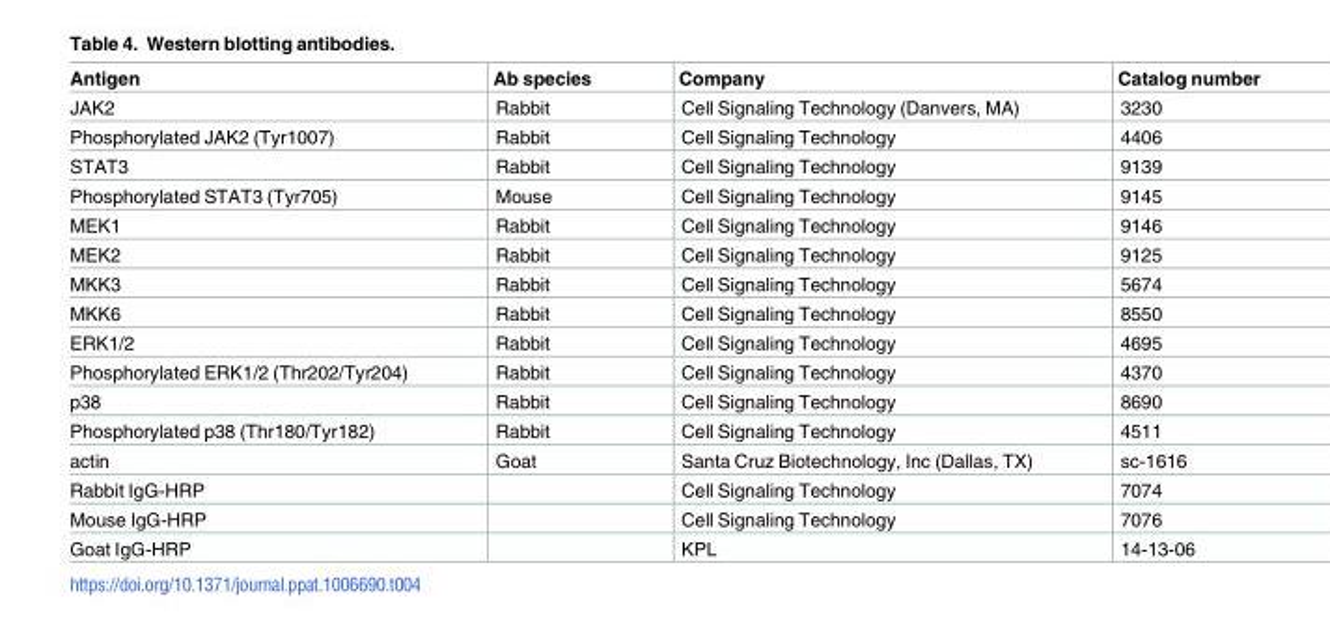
<table><thead><tr><td>Antigen</td><td>Ab species</td><td>Company</td><td>Catalog number</td></tr></thead><tbody><tr><td>JAK2</td><td>Rabbit</td><td>Cell Signaling Technology (Danvers, MA)</td><td>3230</td></tr><tr><td>Phosphorylated JAK2 (Tyr1007)</td><td>Rabbit</td><td>Cell Signaling Technology</td><td>4406</td></tr><tr><td>STAT3</td><td>Rabbit</td><td>Cell Signaling Technology</td><td>9139</td></tr><tr><td>Phosphorylated STAT3 (Tyr705)</td><td>Mouse</td><td>Cell Signaling Technology</td><td>9145</td></tr><tr><td>MEK1</td><td>Rabbit</td><td>Cell Signaling Technology</td><td>9146</td></tr><tr><td>MEK2</td><td>Rabbit</td><td>Cell Signaling Technology</td><td>9125</td></tr><tr><td>MKK3</td><td>Rabbit</td><td>Cell Signaling Technology</td><td>5674</td></tr><tr><td>MKK6</td><td>Rabbit</td><td>Cell Signaling Technology</td><td>8550</td></tr><tr><td>ERK1/2</td><td>Rabbit</td><td>Cell Signaling Technology</td><td>4695</td></tr><tr><td>Phosphorylated ERK1/2 (Thr202/Tyr204)</td><td>Rabbit</td><td>Cell Signaling Technology</td><td>4370</td></tr><tr><td>p38</td><td>Rabbit</td><td>Cell Signaling Technology</td><td>8690</td></tr><tr><td>Phosphorylated p38 (Thr180/Tyr182)</td><td>Rabbit</td><td>Cell Signaling Technology</td><td>4511</td></tr><tr><td>actin</td><td>Goat</td><td>Santa Cruz Biotechnology, Inc (Dallas, TX)</td><td>sc-1616</td></tr><tr><td>Rabbit IgG-HRP</td><td></td><td>Cell Signaling Technology</td><td>7074</td></tr><tr><td>Mouse IgG-HRP</td><td></td><td>Cell Signaling Technology</td><td>7076</td></tr><tr><td>Goat IgG-HRP</td><td></td><td>KPL</td><td>14-13-06</td></tr></tbody></table>